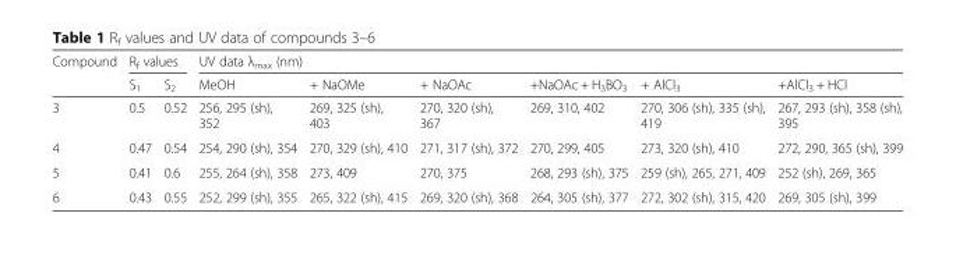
<table><thead><tr><td rowspan="2">Compound</td><td colspan="2">R<sub>f</sub> values</td><td colspan="6">UV data λ<sub>max</sub> (nm)</td></tr><tr><td>S<sub>1</sub></td><td>S<sub>2</sub></td><td>MeOH</td><td>+ NaOMe</td><td>+ NaOAc</td><td>+NaOAc + H<sub>3</sub>BO<sub>3</sub></td><td>+ AlCl<sub>3</sub></td><td>+AlCl<sub>3</sub> + HCl</td></tr></thead><tbody><tr><td>3</td><td>0.5</td><td>0.52</td><td>256, 295 (sh), 352</td><td>269, 325 (sh), 403</td><td>270, 320 (sh), 367</td><td>269, 310, 402</td><td>270, 306 (sh), 335 (sh), 419</td><td>267, 293 (sh), 358 (sh), 395</td></tr><tr><td>4</td><td>0.47</td><td>0.54</td><td>254, 290 (sh), 354</td><td>270, 329 (sh), 410</td><td>271, 317 (sh), 372</td><td>270, 299, 405</td><td>273, 320 (sh), 410</td><td>272, 290, 365 (sh), 399</td></tr><tr><td>5</td><td>0.41</td><td>0.6</td><td>255, 264 (sh), 358</td><td>273, 409</td><td>270, 375</td><td>268, 293 (sh), 375</td><td>259 (sh), 265, 271, 409</td><td>252 (sh), 269, 365</td></tr><tr><td>6</td><td>0.43</td><td>0.55</td><td>252, 299 (sh), 355</td><td>265, 322 (sh), 415</td><td>269, 320 (sh), 368</td><td>264, 305 (sh), 377</td><td>272, 302 (sh), 315, 420</td><td>269, 305 (sh), 399</td></tr></tbody></table>